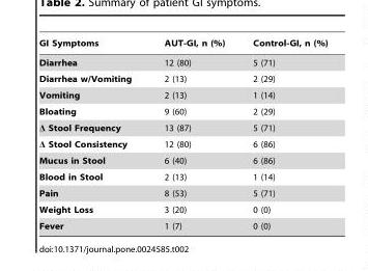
<table><thead><tr><td>GI Symptoms</td><td>AUT-GI, n (%)</td><td>Control-GI, n (%)</td></tr></thead><tbody><tr><td>Diarrhea</td><td>12 (80)</td><td>5 (71)</td></tr><tr><td>Diarrhea w/Vomiting</td><td>2 (13)</td><td>2 (29)</td></tr><tr><td>Vomiting</td><td>2 (13)</td><td>1 (14)</td></tr><tr><td>Bloating</td><td>9 (60)</td><td>2 (29)</td></tr><tr><td>Δ Stool Frequency</td><td>13 (87)</td><td>5 (71)</td></tr><tr><td>Δ Stool Consistency</td><td>12 (80)</td><td>6 (86)</td></tr><tr><td>Mucus in Stool</td><td>6 (40)</td><td>6 (86)</td></tr><tr><td>Blood in Stool</td><td>2 (13)</td><td>1 (14)</td></tr><tr><td>Pain</td><td>8 (53)</td><td>5 (71)</td></tr><tr><td>Weight Loss</td><td>3 (20)</td><td>0 (0)</td></tr><tr><td>Fever</td><td>1 (7)</td><td>0 (0)</td></tr></tbody></table>